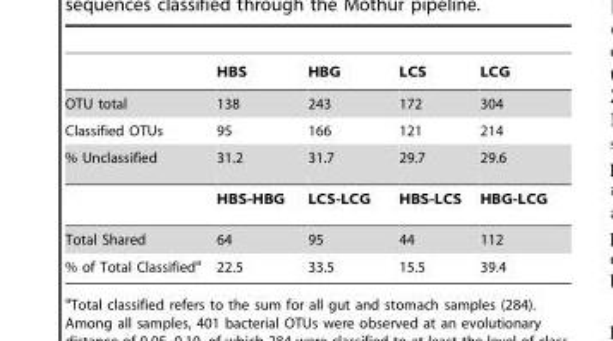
<table><thead><tr><td></td><td>HBS</td><td>HBG</td><td>LCS</td><td>LCG</td></tr></thead><tbody><tr><td>OTU total</td><td>138</td><td>243</td><td>172</td><td>304</td></tr><tr><td>Classified OTUs</td><td>95</td><td>166</td><td>121</td><td>214</td></tr><tr><td rowspan="2">% Unclassified</td><td>31.2</td><td>31.7</td><td>29.7</td><td>29.6</td></tr><tr><td>HBS-HBG</td><td>LCS-LCG</td><td>HBS-LCS</td><td>HBG-LCG</td></tr><tr><td>Total Shared</td><td>64</td><td>95</td><td>44</td><td>112</td></tr><tr><td>% of Total Classified<sup>a</sup></td><td>22.5</td><td>33.5</td><td>15.5</td><td>39.4</td></tr></tbody></table>